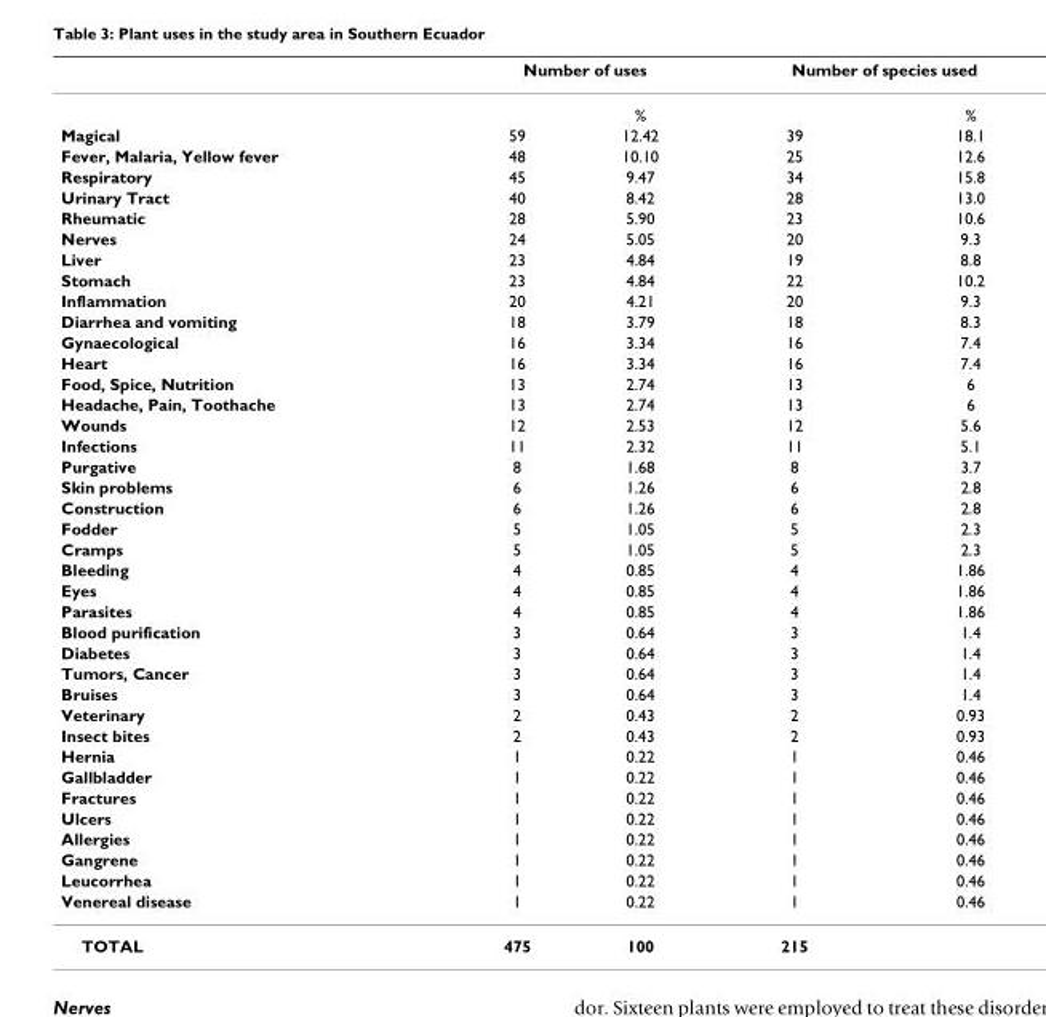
<table><thead><tr><td rowspan="2"></td><td colspan="2">Number of uses</td><td colspan="2">Number of species used</td></tr><tr><td></td><td>%</td><td></td><td>%</td></tr></thead><tbody><tr><td>Magical</td><td>59</td><td>12.42</td><td>39</td><td>18.1</td></tr><tr><td>Fever, Malaria, Yellow fever</td><td>48</td><td>10.10</td><td>25</td><td>12.6</td></tr><tr><td>Respiratory</td><td>45</td><td>9.47</td><td>34</td><td>15.8</td></tr><tr><td>Urinary Tract</td><td>40</td><td>8.42</td><td>28</td><td>13.0</td></tr><tr><td>Rheumatic</td><td>28</td><td>5.90</td><td>23</td><td>10.6</td></tr><tr><td>Nerves</td><td>24</td><td>5.05</td><td>20</td><td>9.3</td></tr><tr><td>Liver</td><td>23</td><td>4.84</td><td>19</td><td>8.8</td></tr><tr><td>Stomach</td><td>23</td><td>4.84</td><td>22</td><td>10.2</td></tr><tr><td>Inflammation</td><td>20</td><td>4.21</td><td>20</td><td>9.3</td></tr><tr><td>Diarrhea and vomiting</td><td>18</td><td>3.79</td><td>18</td><td>8.3</td></tr><tr><td>Gynaecological</td><td>16</td><td>3.34</td><td>16</td><td>7.4</td></tr><tr><td>Heart</td><td>16</td><td>3.34</td><td>16</td><td>7.4</td></tr><tr><td>Food, Spice, Nutrition</td><td>13</td><td>2.74</td><td>13</td><td>6</td></tr><tr><td>Headache, Pain, Toothache</td><td>13</td><td>2.74</td><td>13</td><td>6</td></tr><tr><td>Wounds</td><td>12</td><td>2.53</td><td>12</td><td>5.6</td></tr><tr><td>Infections</td><td>11</td><td>2.32</td><td>11</td><td>5.1</td></tr><tr><td>Purgative</td><td>8</td><td>1.68</td><td>8</td><td>3.7</td></tr><tr><td>Skin problems</td><td>6</td><td>1.26</td><td>6</td><td>2.8</td></tr><tr><td>Construction</td><td>6</td><td>1.26</td><td>6</td><td>2.8</td></tr><tr><td>Fodder</td><td>5</td><td>1.05</td><td>5</td><td>2.3</td></tr><tr><td>Cramps</td><td>5</td><td>1.05</td><td>5</td><td>2.3</td></tr><tr><td>Bleeding</td><td>4</td><td>0.85</td><td>4</td><td>1.86</td></tr><tr><td>Eyes</td><td>4</td><td>0.85</td><td>4</td><td>1.86</td></tr><tr><td>Parasites</td><td>4</td><td>0.85</td><td>4</td><td>1.86</td></tr><tr><td>Blood purification</td><td>3</td><td>0.64</td><td>3</td><td>1.4</td></tr><tr><td>Diabetes</td><td>3</td><td>0.64</td><td>3</td><td>1.4</td></tr><tr><td>Tumors, Cancer</td><td>3</td><td>0.64</td><td>3</td><td>1.4</td></tr><tr><td>Bruises</td><td>3</td><td>0.64</td><td>3</td><td>1.4</td></tr><tr><td>Veterinary</td><td>2</td><td>0.43</td><td>2</td><td>0.93</td></tr><tr><td>Insect bites</td><td>2</td><td>0.43</td><td>2</td><td>0.93</td></tr><tr><td>Hernia</td><td>1</td><td>0.22</td><td>1</td><td>0.46</td></tr><tr><td>Gallbladder</td><td>1</td><td>0.22</td><td>1</td><td>0.46</td></tr><tr><td>Fractures</td><td>1</td><td>0.22</td><td>1</td><td>0.46</td></tr><tr><td>Ulcers</td><td>1</td><td>0.22</td><td>1</td><td>0.46</td></tr><tr><td>Allergies</td><td>1</td><td>0.22</td><td>1</td><td>0.46</td></tr><tr><td>Gangrene</td><td>1</td><td>0.22</td><td>1</td><td>0.46</td></tr><tr><td>Leucorrhea</td><td>1</td><td>0.22</td><td>1</td><td>0.46</td></tr><tr><td>Venereal disease</td><td>1</td><td>0.22</td><td>1</td><td>0.46</td></tr><tr><td>TOTAL</td><td>475</td><td>100</td><td>215</td><td></td></tr></tbody></table>